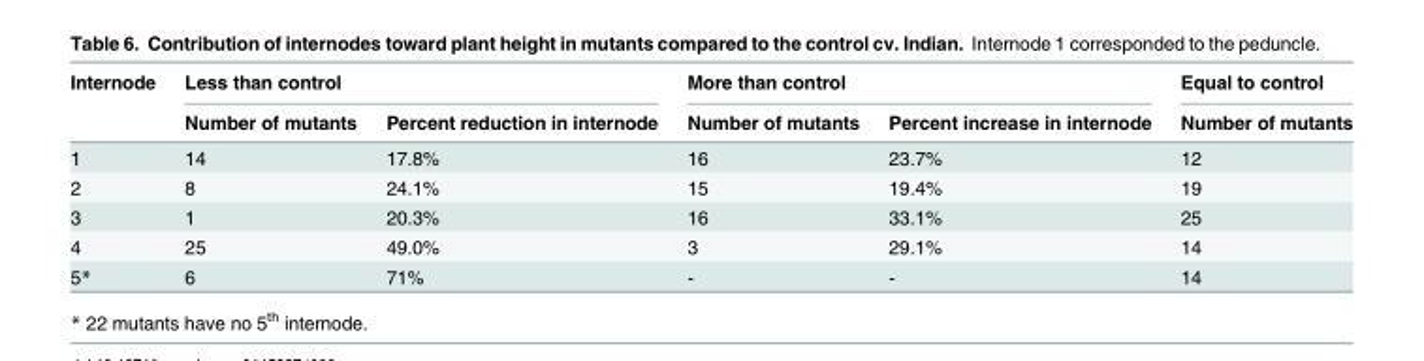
<table><thead><tr><td rowspan="2">Internode</td><td colspan="2">Less than control</td><td colspan="2">More than control</td><td rowspan="2">Equal to control Number of mutants</td></tr><tr><td>Number of mutants</td><td>Percent reduction in internode</td><td>Number of mutants</td><td>Percent increase in internode</td></tr></thead><tbody><tr><td>1</td><td>14</td><td>17.8%</td><td>16</td><td>23.7%</td><td>12</td></tr><tr><td>2</td><td>8</td><td>24.1%</td><td>15</td><td>19.4%</td><td>19</td></tr><tr><td>3</td><td>1</td><td>20.3%</td><td>16</td><td>33.1%</td><td>25</td></tr><tr><td>4</td><td>25</td><td>49.0%</td><td>3</td><td>29.1%</td><td>14</td></tr><tr><td>5*</td><td>6</td><td>71%</td><td>-</td><td>-</td><td>14</td></tr></tbody></table>